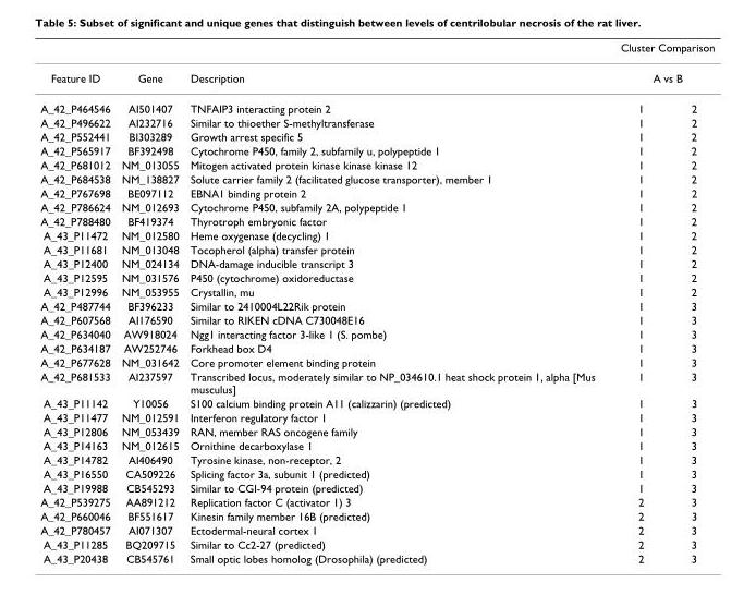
<table><thead><tr><td rowspan="3">Feature ID A_42_P464546</td><td rowspan="3">Gene AI501407</td><td rowspan="3">Description TNFAIP3 interacting protein 2</td><td rowspan="2" colspan="2">Cluster Comparison A vs B</td></tr><tr></tr><tr><td>1</td><td>2</td></tr></thead><tbody><tr><td>A_42_P496622</td><td>AI232716</td><td>Similar to thioether S-methyltransferase</td><td>1</td><td>2</td></tr><tr><td>A_42_P552441</td><td>BI303289</td><td>Growth arrest specific 5</td><td>1</td><td>2</td></tr><tr><td>A_42_P565917</td><td>BF392498</td><td>Cytochrome P450, family 2, subfamily u, polypeptide 1</td><td>1</td><td>2</td></tr><tr><td>A_42_P681012</td><td>NM_013055</td><td>Mitogen activated protein kinase kinase kinase 12</td><td>1</td><td>2</td></tr><tr><td>A_42_P684538</td><td>NM_138827</td><td>Solute carrier family 2 (facilitated glucose transporter), member 1</td><td>1</td><td>2</td></tr><tr><td>A_42_P767698</td><td>BE097112</td><td>EBNA1 binding protein 2</td><td>1</td><td>2</td></tr><tr><td>A_42_P786624</td><td>NM_012693</td><td>Cytochrome P450, subfamily 2A, polypeptide 1</td><td>1</td><td>2</td></tr><tr><td>A_42_P788480</td><td>BF419374</td><td>Thyrotroph embryonic factor</td><td>1</td><td>2</td></tr><tr><td>A_43_P11472</td><td>NM_012580</td><td>Heme oxygenase (decycling) 1</td><td>1</td><td>2</td></tr><tr><td>A_43_P11681</td><td>NM_013048</td><td>Tocopherol (alpha) transfer protein</td><td>1</td><td>2</td></tr><tr><td>A_43_P12400</td><td>NM_024134</td><td>DNA-damage inducible transcript 3</td><td>1</td><td>2</td></tr><tr><td>A_43_P12595</td><td>NM_031576</td><td>P450 (cytochrome) oxidoreductase</td><td>1</td><td>2</td></tr><tr><td>A_43_P12996</td><td>NM_053955</td><td>Crystallin, mu</td><td>1</td><td>2</td></tr><tr><td>A_42_P487744</td><td>BF396233</td><td>Similar to 2410004L22Rik protein</td><td>1</td><td>3</td></tr><tr><td>A_42_P607568</td><td>AI176590</td><td>Similar to RIKEN cDNA C730048E16</td><td>1</td><td>3</td></tr><tr><td>A_42_P634040</td><td>AW918024</td><td>Ngg1 interacting factor 3-like 1 (S. pombe)</td><td>1</td><td>3</td></tr><tr><td>A_42_P634187</td><td>AW252746</td><td>Forkhead box D4</td><td>1</td><td>3</td></tr><tr><td>A_42_P677628</td><td>NM_031642</td><td>Core promoter element binding protein</td><td>1</td><td>3</td></tr><tr><td>A_42_P681533</td><td>AI237597</td><td>Transcribed locus, moderately similar to NP_034610.1 heat shock protein 1, alpha [Mus musculus]</td><td>1</td><td>3</td></tr><tr><td>A_43_P11142</td><td>Y10056</td><td>S100 calcium binding protein A11 (calizzarin) (predicted)</td><td>1</td><td>3</td></tr><tr><td>A_43_P11477</td><td>NM_012591</td><td>Interferon regulatory factor 1</td><td>1</td><td>3</td></tr><tr><td>A_43_P12806</td><td>NM_053439</td><td>RAN, member RAS oncogene family</td><td>1</td><td>3</td></tr><tr><td>A_43_P14163</td><td>NM_012615</td><td>Ornithine decarboxylase 1</td><td>1</td><td>3</td></tr><tr><td>A_43_P14782</td><td>AI406490</td><td>Tyrosine kinase, non-receptor, 2</td><td>1</td><td>3</td></tr><tr><td>A_43_P16550</td><td>CA509226</td><td>Splicing factor 3a, subunit 1 (predicted)</td><td>1</td><td>3</td></tr><tr><td>A_43_P19988</td><td>CB545293</td><td>Similar to CGI-94 protein (predicted)</td><td>1</td><td>3</td></tr><tr><td>A_42_P539275</td><td>AA891212</td><td>Replication factor C (activator 1) 3</td><td>2</td><td>3</td></tr><tr><td>A_42_P660046</td><td>BF551617</td><td>Kinesin family member 16B (predicted)</td><td>2</td><td>3</td></tr><tr><td>A_42_P780457</td><td>AI071307</td><td>Ectodermal-neural cortex 1</td><td>2</td><td>3</td></tr><tr><td>A_43_P11285</td><td>BQ209715</td><td>Similar to Cc2-27 (predicted)</td><td>2</td><td>3</td></tr><tr><td>A_43_P20438</td><td>CB545761</td><td>Small optic lobes homolog (Drosophila) (predicted)</td><td>2</td><td>3</td></tr></tbody></table>